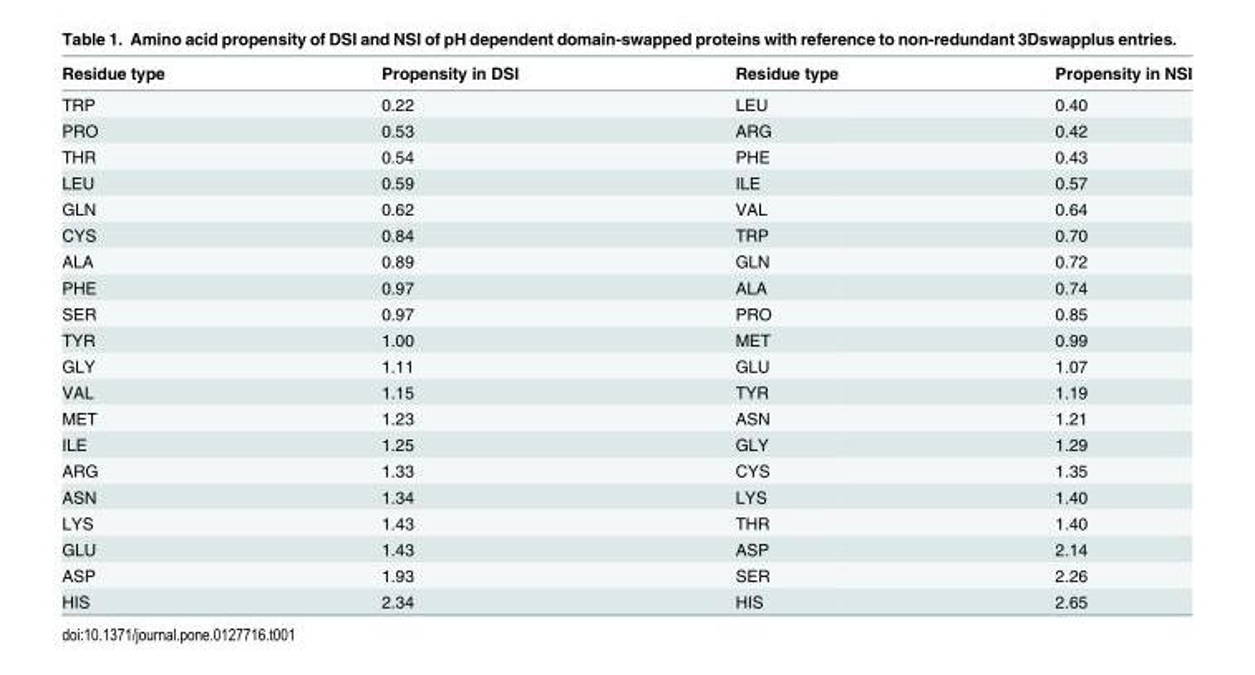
<table><thead><tr><td>Residue type</td><td>Propensity in DSI</td><td>Residue type</td><td>Propensity in NSI</td></tr></thead><tbody><tr><td>TRP</td><td>0.22</td><td>LEU</td><td>0.40</td></tr><tr><td>PRO</td><td>0.53</td><td>ARG</td><td>0.42</td></tr><tr><td>THR</td><td>0.54</td><td>PHE</td><td>0.43</td></tr><tr><td>LEU</td><td>0.59</td><td>ILE</td><td>0.57</td></tr><tr><td>GLN</td><td>0.62</td><td>VAL</td><td>0.64</td></tr><tr><td>CYS</td><td>0.84</td><td>TRP</td><td>0.70</td></tr><tr><td>ALA</td><td>0.89</td><td>GLN</td><td>0.72</td></tr><tr><td>PHE</td><td>0.97</td><td>ALA</td><td>0.74</td></tr><tr><td>SER</td><td>0.97</td><td>PRO</td><td>0.85</td></tr><tr><td>TYR</td><td>1.00</td><td>MET</td><td>0.99</td></tr><tr><td>GLY</td><td>1.11</td><td>GLU</td><td>1.07</td></tr><tr><td>VAL</td><td>1.15</td><td>TYR</td><td>1.19</td></tr><tr><td>MET</td><td>1.23</td><td>ASN</td><td>1.21</td></tr><tr><td>ILE</td><td>1.25</td><td>GLY</td><td>1.29</td></tr><tr><td>ARG</td><td>1.33</td><td>CYS</td><td>1.35</td></tr><tr><td>ASN</td><td>1.34</td><td>LYS</td><td>1.40</td></tr><tr><td>LYS</td><td>1.43</td><td>THR</td><td>1.40</td></tr><tr><td>GLU</td><td>1.43</td><td>ASP</td><td>2.14</td></tr><tr><td>ASP</td><td>1.93</td><td>SER</td><td>2.26</td></tr><tr><td>HIS</td><td>2.34</td><td>HIS</td><td>2.65</td></tr></tbody></table>